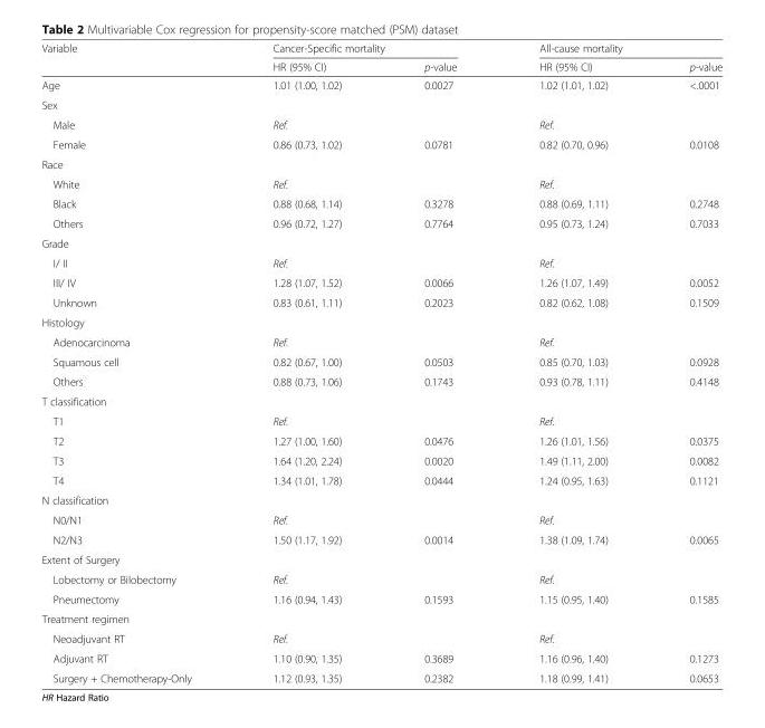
<table><thead><tr><td rowspan="2">Variable</td><td colspan="2">Cancer-Specific mortality</td><td colspan="2">All-cause mortality</td></tr><tr><td>HR (95% CI)</td><td>p-value</td><td>HR (95% CI)</td><td>p-value</td></tr></thead><tbody><tr><td>Age</td><td>1.01 (1.00, 1.02)</td><td>0.0027</td><td>1.02 (1.01, 1.02)</td><td>&lt;.0001</td></tr><tr><td colspan="5">Sex</td></tr><tr><td>Male</td><td>Ref.</td><td></td><td>Ref.</td><td></td></tr><tr><td>Female</td><td>0.86 (0.73, 1.02)</td><td>0.0781</td><td>0.82 (0.70, 0.96)</td><td>0.0108</td></tr><tr><td colspan="5">Race</td></tr><tr><td>White</td><td>Ref.</td><td></td><td>Ref.</td><td></td></tr><tr><td>Black</td><td>0.88 (0.68, 1.14)</td><td>0.3278</td><td>0.88 (0.69, 1.11)</td><td>0.2748</td></tr><tr><td>Others</td><td>0.96 (0.72, 1.27)</td><td>0.7764</td><td>0.95 (0.73, 1.24)</td><td>0.7033</td></tr><tr><td colspan="5">Grade</td></tr><tr><td>I/ II</td><td>Ref.</td><td></td><td>Ref.</td><td></td></tr><tr><td>III/ IV</td><td>1.28 (1.07, 1.52)</td><td>0.0066</td><td>1.26 (1.07, 1.49)</td><td>0.0052</td></tr><tr><td>Unknown</td><td>0.83 (0.61, 1.11)</td><td>0.2023</td><td>0.82 (0.62, 1.08)</td><td>0.1509</td></tr><tr><td colspan="5">Histology</td></tr><tr><td>Adenocarcinoma</td><td>Ref.</td><td></td><td>Ref.</td><td></td></tr><tr><td>Squamous cell</td><td>0.82 (0.67, 1.00)</td><td>0.0503</td><td>0.85 (0.70, 1.03)</td><td>0.0928</td></tr><tr><td>Others</td><td>0.88 (0.73, 1.06)</td><td>0.1743</td><td>0.93 (0.78, 1.11)</td><td>0.4148</td></tr><tr><td colspan="5">T classification</td></tr><tr><td>T1</td><td>Ref.</td><td></td><td>Ref.</td><td></td></tr><tr><td>T2</td><td>1.27 (1.00, 1.60)</td><td>0.0476</td><td>1.26 (1.01, 1.56)</td><td>0.0375</td></tr><tr><td>T3</td><td>1.64 (1.20, 2.24)</td><td>0.0020</td><td>1.49 (1.11, 2.00)</td><td>0.0082</td></tr><tr><td>T4</td><td>1.34 (1.01, 1.78)</td><td>0.0444</td><td>1.24 (0.95, 1.63)</td><td>0.1121</td></tr><tr><td colspan="5">N classification</td></tr><tr><td>N0/N1</td><td>Ref.</td><td></td><td>Ref.</td><td></td></tr><tr><td>N2/N3</td><td>1.50 (1.17, 1.92)</td><td>0.0014</td><td>1.38 (1.09, 1.74)</td><td>0.0065</td></tr><tr><td colspan="5">Extent of Surgery</td></tr><tr><td>Lobectomy or Bilobectomy</td><td>Ref.</td><td></td><td>Ref.</td><td></td></tr><tr><td>Pneumectomy</td><td>1.16 (0.94, 1.43)</td><td>0.1593</td><td>1.15 (0.95, 1.40)</td><td>0.1585</td></tr><tr><td colspan="5">Treatment regimen</td></tr><tr><td>Neoadjuvant RT</td><td>Ref.</td><td></td><td>Ref.</td><td></td></tr><tr><td>Adjuvant RT</td><td>1.10 (0.90, 1.35)</td><td>0.3689</td><td>1.16 (0.96, 1.40)</td><td>0.1273</td></tr><tr><td>Surgery + Chemotherapy-Only</td><td>1.12 (0.93, 1.35)</td><td>0.2382</td><td>1.18 (0.99, 1.41)</td><td>0.0653</td></tr></tbody></table>